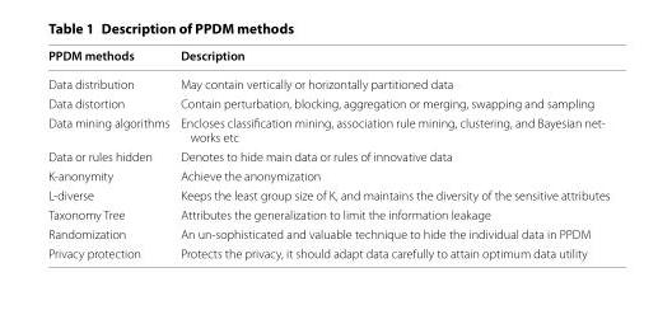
<table><thead><tr><td>PPDM methods</td><td>Description</td></tr></thead><tbody><tr><td>Data distribution</td><td>May contain vertically or horizontally partitioned data</td></tr><tr><td>Data distortion</td><td>Contain perturbation, blocking, aggregation or merging, swapping and sampling</td></tr><tr><td>Data mining algorithms</td><td>Encloses classification mining, association rule mining, clustering, and Bayesian net- works etc</td></tr><tr><td>Data or rules hidden</td><td>Denotes to hide main data or rules of innovative data</td></tr><tr><td>K-anonymity</td><td>Achieve the anonymization</td></tr><tr><td>L-diverse</td><td>Keeps the least group size of K, and maintains the diversity of the sensitive attributes</td></tr><tr><td>Taxonomy Tree</td><td>Attributes the generalization to limit the information leakage</td></tr><tr><td>Randomization</td><td>An un-sophisticated and valuable technique to hide the individual data in PPDM</td></tr><tr><td>Privacy protection</td><td>Protects the privacy, it should adapt data carefully to attain optimum data utility</td></tr></tbody></table>